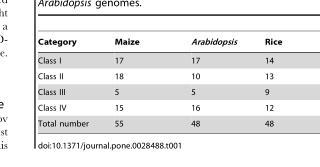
<table><thead><tr><td>Category</td><td>Maize</td><td>Arabidopsis</td><td>Rice</td></tr></thead><tbody><tr><td>Class I</td><td>17</td><td>17</td><td>14</td></tr><tr><td>Class II</td><td>18</td><td>10</td><td>13</td></tr><tr><td>Class III</td><td>5</td><td>5</td><td>9</td></tr><tr><td>Class IV</td><td>15</td><td>16</td><td>12</td></tr><tr><td>Total number</td><td>55</td><td>48</td><td>48</td></tr></tbody></table>